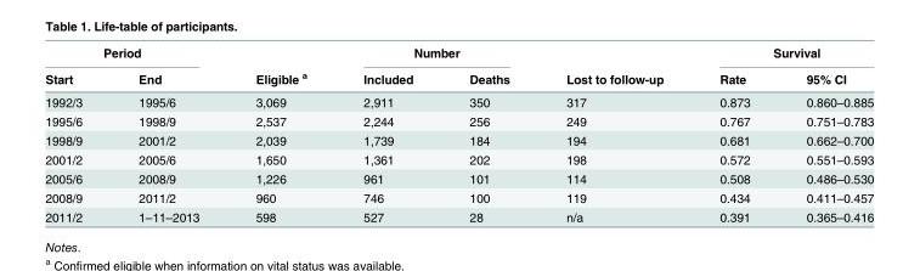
<table><thead><tr><td colspan="2">Period</td><td rowspan="2">Eligible <sup>a</sup></td><td colspan="2">Number</td><td rowspan="2">Lost to follow-up</td><td colspan="2">Survival</td></tr><tr><td>Start</td><td>End</td><td>Included</td><td>Deaths</td><td>Rate</td><td>95% CI</td></tr></thead><tbody><tr><td>1992/3</td><td>1995/6</td><td>3,069</td><td>2,911</td><td>350</td><td>317</td><td>0.873</td><td>0.860–0.885</td></tr><tr><td>1995/6</td><td>1998/9</td><td>2,537</td><td>2,244</td><td>256</td><td>249</td><td>0.767</td><td>0.751–0.783</td></tr><tr><td>1998/9</td><td>2001/2</td><td>2,039</td><td>1,739</td><td>184</td><td>194</td><td>0.681</td><td>0.662–0.700</td></tr><tr><td>2001/2</td><td>2005/6</td><td>1,650</td><td>1,361</td><td>202</td><td>198</td><td>0.572</td><td>0.551–0.593</td></tr><tr><td>2005/6</td><td>2008/9</td><td>1,226</td><td>961</td><td>101</td><td>114</td><td>0.508</td><td>0.486–0.530</td></tr><tr><td>2008/9</td><td>2011/2</td><td>960</td><td>746</td><td>100</td><td>119</td><td>0.434</td><td>0.411–0.457</td></tr><tr><td>2011/2</td><td>1–11–2013</td><td>598</td><td>527</td><td>28</td><td>n/a</td><td>0.391</td><td>0.365–0.416</td></tr></tbody></table>